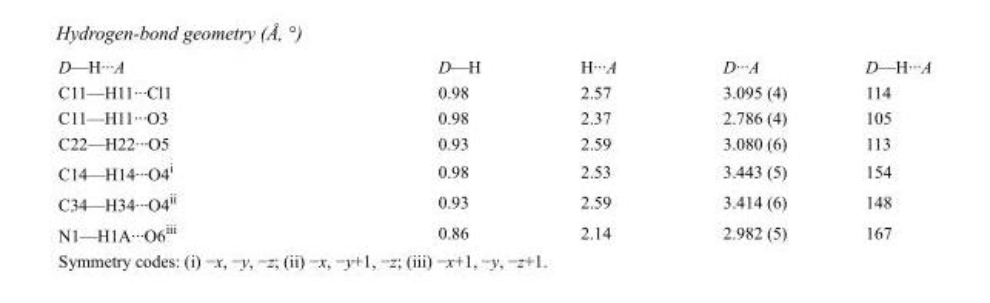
<table><tbody><tr><td>D—H···A</td><td>D—H</td><td>H···A</td><td>D···A</td><td>D—H···A</td></tr><tr><td>C11—H11···Cl1</td><td>0.98</td><td>2.57</td><td>3.095 (4)</td><td>114</td></tr><tr><td>C11—H11···O3</td><td>0.98</td><td>2.37</td><td>2.786 (4)</td><td>105</td></tr><tr><td>C22—H22···O5</td><td>0.93</td><td>2.59</td><td>3.080 (6)</td><td>113</td></tr><tr><td>C14—H14···O4<sup>i</sup></td><td>0.98</td><td>2.53</td><td>3.443 (5)</td><td>154</td></tr><tr><td>C34—H34···O4<sup>ii</sup></td><td>0.93</td><td>2.59</td><td>3.414 (6)</td><td>148</td></tr><tr><td>N1—H1A···O6<sup>iii</sup></td><td>0.86</td><td>2.14</td><td>2.982 (5)</td><td>167</td></tr></tbody></table>